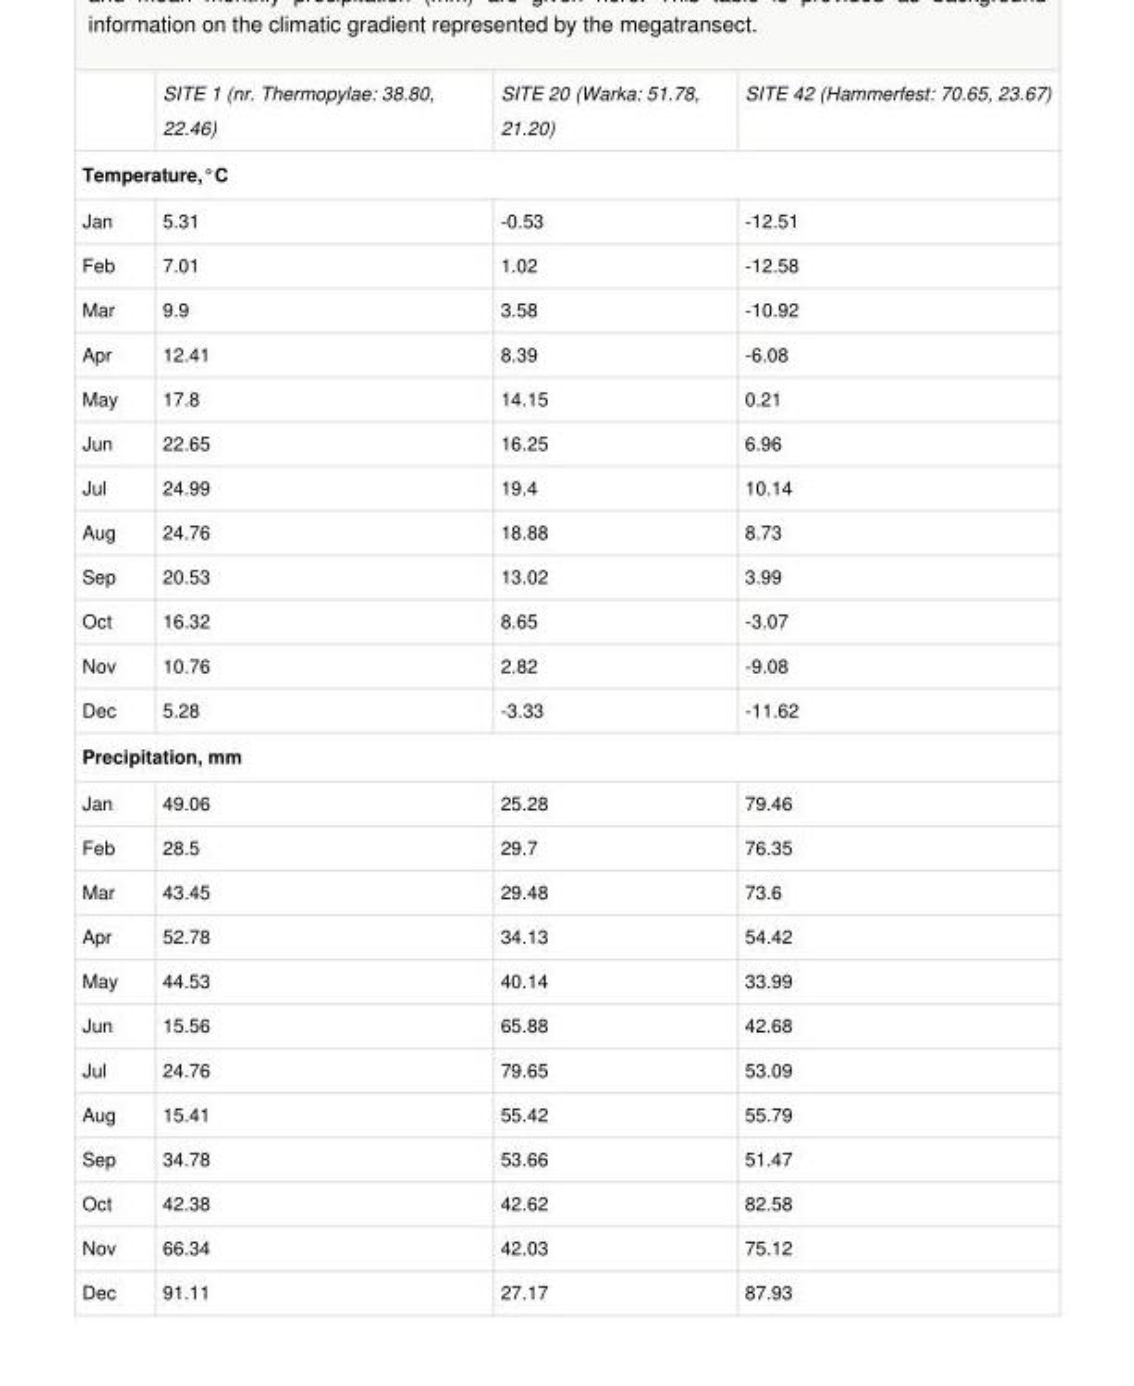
<table><thead><tr><td></td><td>SITE 1 (nr. Thermopylae: 38.80, 22.46)</td><td>SITE 20 (Warka: 51.78, 21.20)</td><td>SITE 42 (Hammerfest: 70.65, 23.67)</td></tr></thead><tbody><tr><td colspan="4">Temperature,°C</td></tr><tr><td>Jan</td><td>5.31</td><td>-0.53</td><td>-12.51</td></tr><tr><td>Feb</td><td>7.01</td><td>1.02</td><td>-12.58</td></tr><tr><td>Mar</td><td>9.9</td><td>3.58</td><td>-10.92</td></tr><tr><td>Apr</td><td>12.41</td><td>8.39</td><td>-6.08</td></tr><tr><td>May</td><td>17.8</td><td>14.15</td><td>0.21</td></tr><tr><td>Jun</td><td>22.65</td><td>16.25</td><td>6.96</td></tr><tr><td>Jul</td><td>24.99</td><td>19.4</td><td>10.14</td></tr><tr><td>Aug</td><td>24.76</td><td>18.88</td><td>8.73</td></tr><tr><td>Sep</td><td>20.53</td><td>13.02</td><td>3.99</td></tr><tr><td>Oct</td><td>16.32</td><td>8.65</td><td>-3.07</td></tr><tr><td>Nov</td><td>10.76</td><td>2.82</td><td>-9.08</td></tr><tr><td>Dec</td><td>5.28</td><td>-3.33</td><td>-11.62</td></tr><tr><td colspan="4">Precipitation, mm</td></tr><tr><td>Jan</td><td>49.06</td><td>25.28</td><td>79.46</td></tr><tr><td>Feb</td><td>28.5</td><td>29.7</td><td>76.35</td></tr><tr><td>Mar</td><td>43.45</td><td>29.48</td><td>73.6</td></tr><tr><td>Apr</td><td>52.78</td><td>34.13</td><td>54.42</td></tr><tr><td>May</td><td>44.53</td><td>40.14</td><td>33.99</td></tr><tr><td>Jun</td><td>15.56</td><td>65.88</td><td>42.68</td></tr><tr><td>Jul</td><td>24.76</td><td>79.65</td><td>53.09</td></tr><tr><td>Aug</td><td>15.41</td><td>55.42</td><td>55.79</td></tr><tr><td>Sep</td><td>34.78</td><td>53.66</td><td>51.47</td></tr><tr><td>Oct</td><td>42.38</td><td>42.62</td><td>82.58</td></tr><tr><td>Nov</td><td>66.34</td><td>42.03</td><td>75.12</td></tr><tr><td>Dec</td><td>91.11</td><td>27.17</td><td>87.93</td></tr></tbody></table>